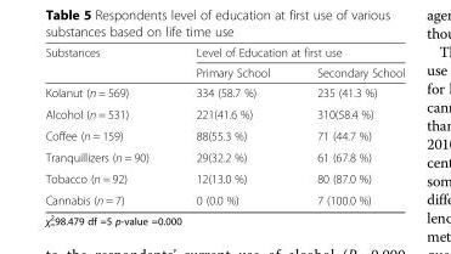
<table><thead><tr><td rowspan="2">Substances</td><td colspan="2">Level of Education at first use</td></tr><tr><td>Primary School</td><td>Secondary School</td></tr></thead><tbody><tr><td>Kolanut (n = 569)</td><td>334 (58.7 %)</td><td>235 (41.3 %)</td></tr><tr><td>Alcohol (n = 531)</td><td>221(41.6 %)</td><td>310(58.4 %)</td></tr><tr><td>Coffee (n = 159)</td><td>88(55.3 %)</td><td>71 (44.7 %)</td></tr><tr><td>Tranquillizers (n = 90)</td><td>29(32.2 %)</td><td>61 (67.8 %)</td></tr><tr><td>Tobacco (n = 92)</td><td>12(13.0 %)</td><td>80 (87.0 %)</td></tr><tr><td>Cannabis (n = 7)</td><td>0 (0.0 %)</td><td>7 (100.0 %)</td></tr></tbody></table>